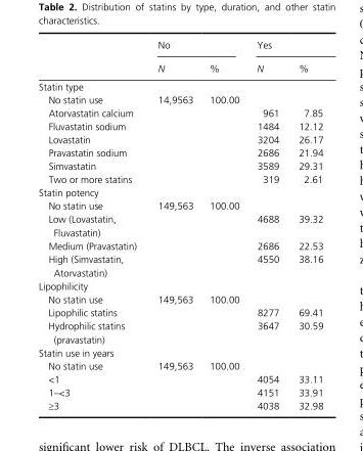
<table><thead><tr><td rowspan="2"></td><td colspan="2">No</td><td colspan="2">Yes</td></tr><tr><td>N</td><td>%</td><td>N</td><td>%</td></tr></thead><tbody><tr><td colspan="5">Statin type</td></tr><tr><td>No statin use</td><td>14,9563</td><td>100.00</td><td></td><td></td></tr><tr><td>Atorvastatin calcium</td><td></td><td></td><td>961</td><td>7.85</td></tr><tr><td>Fluvastatin sodium</td><td></td><td></td><td>1484</td><td>12.12</td></tr><tr><td>Lovastatin</td><td></td><td></td><td>3204</td><td>26.17</td></tr><tr><td>Pravastatin sodium</td><td></td><td></td><td>2686</td><td>21.94</td></tr><tr><td>Simvastatin</td><td></td><td></td><td>3589</td><td>29.31</td></tr><tr><td>Two or more statins</td><td></td><td></td><td>319</td><td>2.61</td></tr><tr><td colspan="5">Statin potency</td></tr><tr><td>No statin use</td><td>149,563</td><td>100.00</td><td></td><td></td></tr><tr><td>Low (Lovastatin, Fluvastatin)</td><td></td><td></td><td>4688</td><td>39.32</td></tr><tr><td>Medium (Pravastatin)</td><td></td><td></td><td>2686</td><td>22.53</td></tr><tr><td>High (Simvastatin, Atorvastatin)</td><td></td><td></td><td>4550</td><td>38.16</td></tr><tr><td colspan="5">Lipophilicity</td></tr><tr><td>No statin use</td><td>149,563</td><td>100.00</td><td></td><td></td></tr><tr><td>Lipophilic statins</td><td></td><td></td><td>8277</td><td>69.41</td></tr><tr><td>Hydrophilic statins (pravastatin)</td><td></td><td></td><td>3647</td><td>30.59</td></tr><tr><td colspan="5">Statin use in years</td></tr><tr><td>No statin use</td><td>149,563</td><td>100.00</td><td></td><td></td></tr><tr><td>&lt;1</td><td></td><td></td><td>4054</td><td>33.11</td></tr><tr><td>1–&lt;3</td><td></td><td></td><td>4151</td><td>33.91</td></tr><tr><td>≥3</td><td></td><td></td><td>4038</td><td>32.98</td></tr></tbody></table>